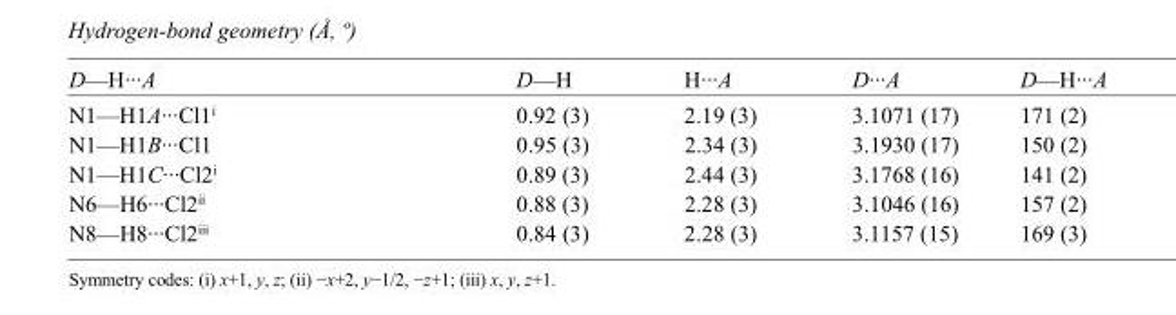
<table><tbody><tr><td>D—H···A</td><td>D—H</td><td>H···A</td><td>D···A</td><td>D—H···A</td></tr><tr><td>N1—H1A···Cl1<sup>i</sup></td><td>0.92 (3)</td><td>2.19 (3)</td><td>3.1071 (17)</td><td>171 (2)</td></tr><tr><td>N1—H1B···Cl1</td><td>0.95 (3)</td><td>2.34 (3)</td><td>3.1930 (17)</td><td>150 (2)</td></tr><tr><td>N1—H1C···Cl2<sup>i</sup></td><td>0.89 (3)</td><td>2.44 (3)</td><td>3.1768 (16)</td><td>141 (2)</td></tr><tr><td>N6—H6···Cl2<sup>ii</sup></td><td>0.88 (3)</td><td>2.28 (3)</td><td>3.1046 (16)</td><td>157 (2)</td></tr><tr><td>N8—H8···Cl2<sup>iii</sup></td><td>0.84 (3)</td><td>2.28 (3)</td><td>3.1157 (15)</td><td>169 (3)</td></tr></tbody></table>